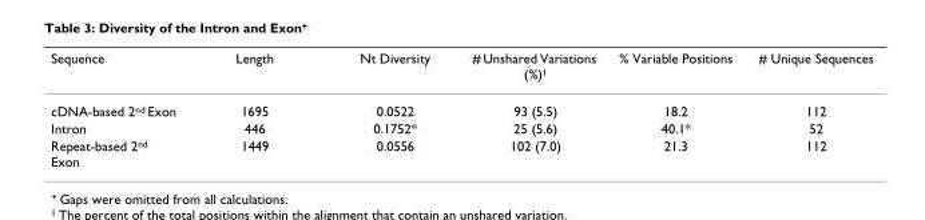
<table><thead><tr><td>Sequence</td><td>Length</td><td>Nt Diversity</td><td># Unshared Variations (%)<sup>1</sup></td><td>% Variable Positions</td><td># Unique Sequences</td></tr></thead><tbody><tr><td>cDNA-based 2<sup>nd</sup> Exon</td><td>1695</td><td>0.0522</td><td>93 (5.5)</td><td>18.2</td><td>112</td></tr><tr><td>Intron</td><td>446</td><td>0.1752*</td><td>25 (5.6)</td><td>40.1*</td><td>52</td></tr><tr><td>Repeat-based 2<sup>nd</sup> Exon</td><td>1449</td><td>0.0556</td><td>102 (7.0)</td><td>21.3</td><td>112</td></tr></tbody></table>